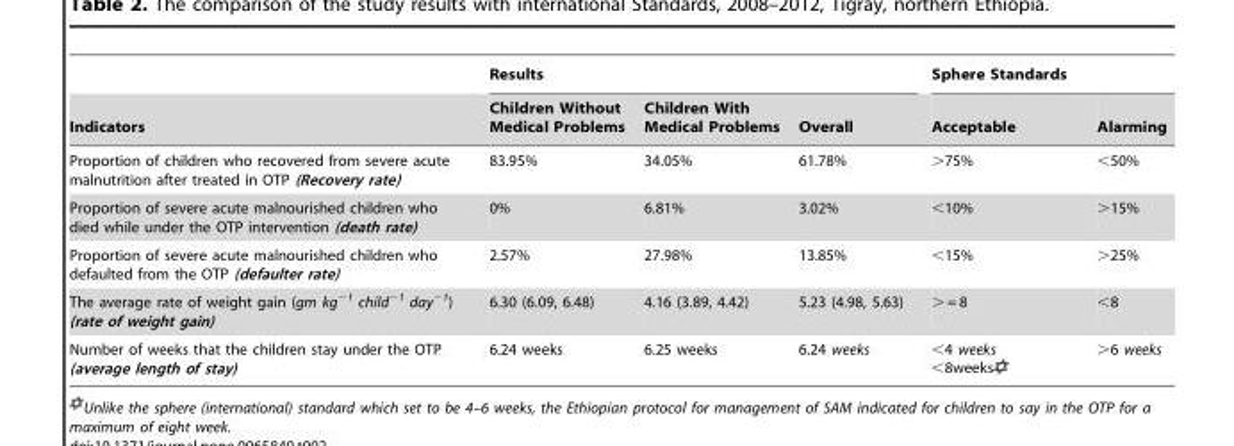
<table><thead><tr><td rowspan="2">Indicators</td><td colspan="3">Results</td><td colspan="2">Sphere Standards</td></tr><tr><td>Children Without Medical Problems</td><td>Children With Medical Problems</td><td>Overall</td><td>Acceptable</td><td>Alarming</td></tr></thead><tbody><tr><td>Proportion of children who recovered from severe acute malnutrition after treated in OTP (Recovery rate)</td><td>83.95%</td><td>34.05%</td><td>61.78%</td><td>&gt;75%</td><td>&lt;50%</td></tr><tr><td>Proportion of severe acute malnourished children who died while under the OTP intervention (death rate)</td><td>0%</td><td>6.81%</td><td>3.02%</td><td>&lt;10%</td><td>&gt;15%</td></tr><tr><td>Proportion of severe acute malnourished children who defaulted from the OTP (defaulter rate)</td><td>2.57%</td><td>27.98%</td><td>13.85%</td><td>&lt;15%</td><td>&gt;25%</td></tr><tr><td>The average rate of weight gain (gm kg<sup>−1</sup> child<sup>−1</sup> day<sup>−1</sup>) (rate of weight gain)</td><td>6.30 (6.09, 6.48)</td><td>4.16 (3.89, 4.42)</td><td>5.23 (4.98, 5.63)</td><td>&gt; = 8</td><td>&lt;8</td></tr><tr><td>Number of weeks that the children stay under the OTP (average length of stay)</td><td>6.24 weeks</td><td>6.25 weeks</td><td>6.24 weeks</td><td>,4 weeks ,8weeks</td><td>&gt;6 weeks</td></tr></tbody></table>